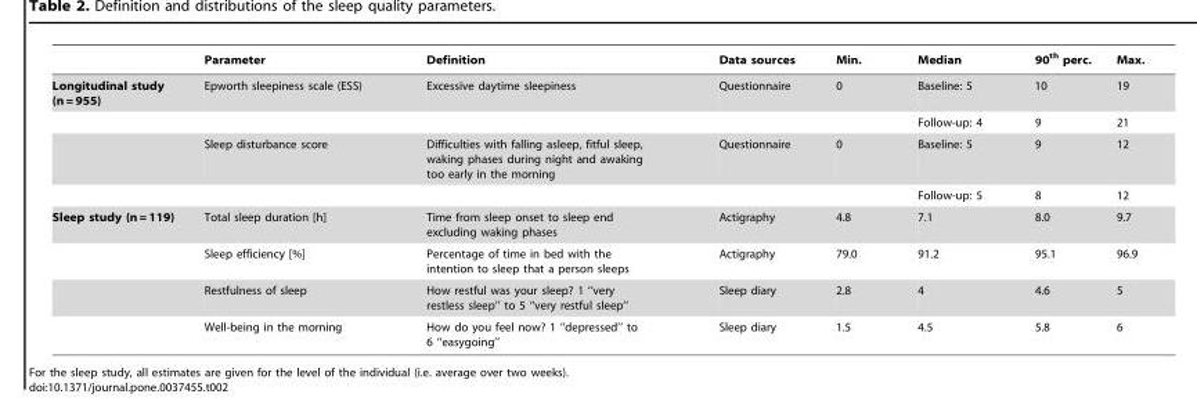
<table><thead><tr><td></td><td>Parameter</td><td>Definition</td><td>Data sources</td><td>Min.</td><td>Median</td><td>90<sup>th</sup> perc.</td><td>Max.</td></tr></thead><tbody><tr><td rowspan="4">Longitudinal study (n = 955)</td><td>Epworth sleepiness scale (ESS)</td><td>Excessive daytime sleepiness</td><td>Questionnaire</td><td>0</td><td>Baseline: 5</td><td>10</td><td>19</td></tr><tr><td></td><td></td><td></td><td></td><td>Follow-up: 4</td><td>9</td><td>21</td></tr><tr><td>Sleep disturbance score</td><td>Difficulties with falling asleep, fitful sleep, waking phases during night and awaking too early in the morning</td><td>Questionnaire</td><td>0</td><td>Baseline: 5</td><td>9</td><td>12</td></tr><tr><td></td><td></td><td></td><td></td><td>Follow-up: 5</td><td>8</td><td>12</td></tr><tr><td rowspan="4">Sleep study (n = 119)</td><td>Total sleep duration [h]</td><td>Time from sleep onset to sleep end excluding waking phases</td><td>Actigraphy</td><td>4.8</td><td>7.1</td><td>8.0</td><td>9.7</td></tr><tr><td>Sleep efficiency [%]</td><td>Percentage of time in bed with the intention to sleep that a person sleeps</td><td>Actigraphy</td><td>79.0</td><td>91.2</td><td>95.1</td><td>96.9</td></tr><tr><td>Restfulness of sleep</td><td>How restful was your sleep? 1 ‘‘very restless sleep’’ to 5 ‘‘very restful sleep’’</td><td>Sleep diary</td><td>2.8</td><td>4</td><td>4.6</td><td>5</td></tr><tr><td>Well-being in the morning</td><td>How do you feel now? 1 ‘‘depressed’’ to 6 ‘‘easygoing’’</td><td>Sleep diary</td><td>1.5</td><td>4.5</td><td>5.8</td><td>6</td></tr></tbody></table>